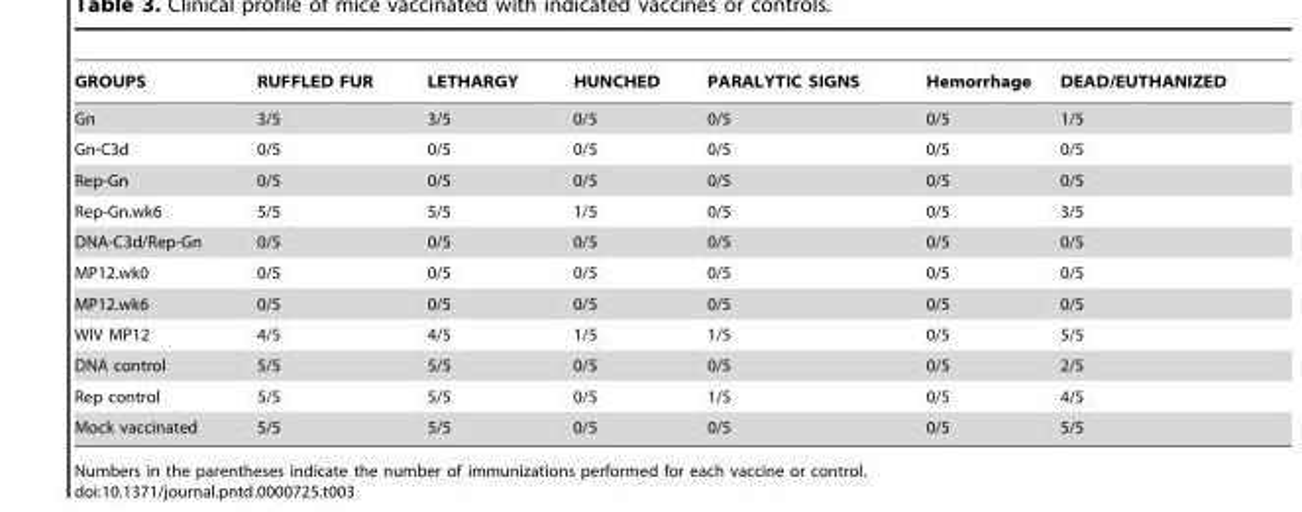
<table><thead><tr><td>GROUPS</td><td>RUFFLED FUR</td><td>LETHARGY</td><td>HUNCHED</td><td>PARALYTIC SIGNS</td><td>Hemorrhage</td><td>DEAD/EUTHANIZED</td></tr></thead><tbody><tr><td>Gn</td><td>3/5</td><td>3/5</td><td>0/5</td><td>0/5</td><td>0/5</td><td>1/5</td></tr><tr><td>Gn-C3d</td><td>0/5</td><td>0/5</td><td>0/5</td><td>0/5</td><td>0/5</td><td>0/5</td></tr><tr><td>Rep-Gn</td><td>0/5</td><td>0/5</td><td>0/5</td><td>0/5</td><td>0/5</td><td>0/5</td></tr><tr><td>Rep-Gn.wk6</td><td>5/5</td><td>5/5</td><td>1/5</td><td>0/5</td><td>0/5</td><td>3/5</td></tr><tr><td>DNA-C3d/Rep-Gn</td><td>0/5</td><td>0/5</td><td>0/5</td><td>0/5</td><td>0/5</td><td>0/5</td></tr><tr><td>MP12.wk0</td><td>0/5</td><td>0/5</td><td>0/5</td><td>0/5</td><td>0/5</td><td>0/5</td></tr><tr><td>MP12.wk6</td><td>0/5</td><td>0/5</td><td>0/5</td><td>0/5</td><td>0/5</td><td>0/5</td></tr><tr><td>WIV MP12</td><td>4/5</td><td>4/5</td><td>1/5</td><td>1/5</td><td>0/5</td><td>5/5</td></tr><tr><td>DNA control</td><td>5/5</td><td>5/5</td><td>0/5</td><td>0/5</td><td>0/5</td><td>2/5</td></tr><tr><td>Rep control</td><td>5/5</td><td>5/5</td><td>0/5</td><td>1/5</td><td>0/5</td><td>4/5</td></tr><tr><td>Mock vaccinated</td><td>5/5</td><td>5/5</td><td>0/5</td><td>0/5</td><td>0/5</td><td>5/5</td></tr></tbody></table>